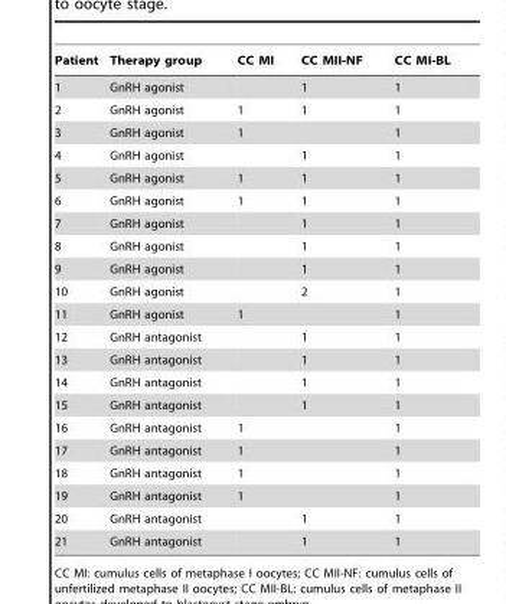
<table><thead><tr><td>Patient</td><td>Therapy group</td><td>CC MI</td><td>CC MII-NF</td><td>CC MI-BL</td></tr></thead><tbody><tr><td>1</td><td>GnRH agonist</td><td></td><td>1</td><td>1</td></tr><tr><td>2</td><td>GnRH agonist</td><td>1</td><td>1</td><td>1</td></tr><tr><td>3</td><td>GnRH agonist</td><td>1</td><td></td><td>1</td></tr><tr><td>4</td><td>GnRH agonist</td><td></td><td>1</td><td>1</td></tr><tr><td>5</td><td>GnRH agonist</td><td>1</td><td>1</td><td>1</td></tr><tr><td>6</td><td>GnRH agonist</td><td>1</td><td>1</td><td>1</td></tr><tr><td>7</td><td>GnRH agonist</td><td></td><td>1</td><td>1</td></tr><tr><td>8</td><td>GnRH agonist</td><td></td><td>1</td><td>1</td></tr><tr><td>9</td><td>GnRH agonist</td><td></td><td>1</td><td>1</td></tr><tr><td>10</td><td>GnRH agonist</td><td></td><td>2</td><td>1</td></tr><tr><td>11</td><td>GnRH agonist</td><td>1</td><td></td><td>1</td></tr><tr><td>12</td><td>GnRH antagonist</td><td></td><td>1</td><td>1</td></tr><tr><td>13</td><td>GnRH antagonist</td><td></td><td>1</td><td>1</td></tr><tr><td>14</td><td>GnRH antagonist</td><td></td><td>1</td><td>1</td></tr><tr><td>15</td><td>GnRH antagonist</td><td></td><td>1</td><td>1</td></tr><tr><td>16</td><td>GnRH antagonist</td><td>1</td><td></td><td>1</td></tr><tr><td>17</td><td>GnRH antagonist</td><td>1</td><td></td><td>1</td></tr><tr><td>18</td><td>GnRH antagonist</td><td>1</td><td></td><td>1</td></tr><tr><td>19</td><td>GnRH antagonist</td><td>1</td><td></td><td>1</td></tr><tr><td>20</td><td>GnRH antagonist</td><td></td><td>1</td><td>1</td></tr><tr><td>21</td><td>GnRH antagonist</td><td></td><td>1</td><td>1</td></tr></tbody></table>